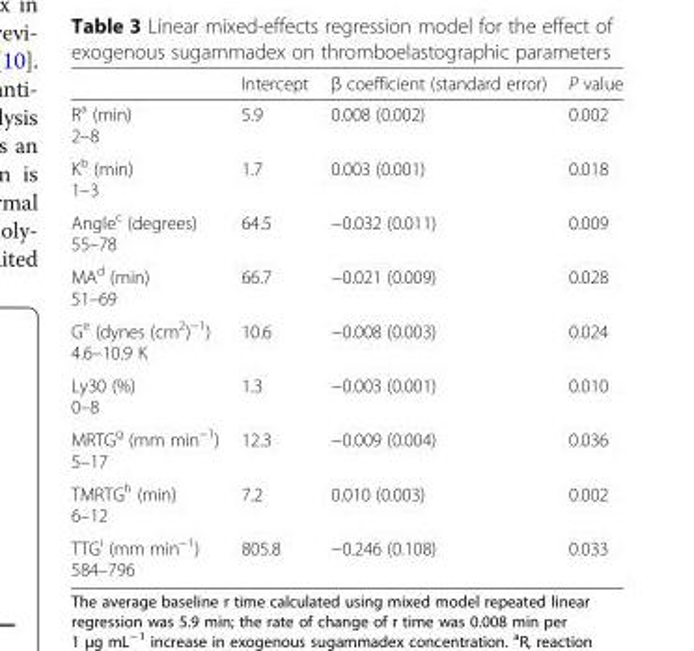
<table><thead><tr><td></td><td>Intercept</td><td>β coefficient (standard error)</td><td>P value</td></tr></thead><tbody><tr><td>R<sup>a</sup> (min) 2–8</td><td>5.9</td><td>0.008 (0.002)</td><td>0.002</td></tr><tr><td>K<sup>b</sup> (min) 1–3</td><td>1.7</td><td>0.003 (0.001)</td><td>0.018</td></tr><tr><td>Angle<sup>c</sup> (degrees) 55–78</td><td>64.5</td><td>−0.032 (0.011)</td><td>0.009</td></tr><tr><td>MA<sup>d</sup> (min) 51–69</td><td>66.7</td><td>−0.021 (0.009)</td><td>0.028</td></tr><tr><td>G<sup>e</sup> (dynes (cm<sup>2</sup>)<sup>−1</sup>) 4.6–10.9 K</td><td>10.6</td><td>−0.008 (0.003)</td><td>0.024</td></tr><tr><td>Ly30 (%) 0–8</td><td>1.3</td><td>−0.003 (0.001)</td><td>0.010</td></tr><tr><td>MRTG<sup>g</sup> (mm min<sup>−1</sup>) 5–17</td><td>12.3</td><td>−0.009 (0.004)</td><td>0.036</td></tr><tr><td>TMRTG<sup>h</sup> (min) 6–12</td><td>7.2</td><td>0.010 (0.003)</td><td>0.002</td></tr><tr><td>TTG<sup>i</sup> (mm min<sup>−1</sup>) 584–796</td><td>805.8</td><td>−0.246 (0.108)</td><td>0.033</td></tr></tbody></table>